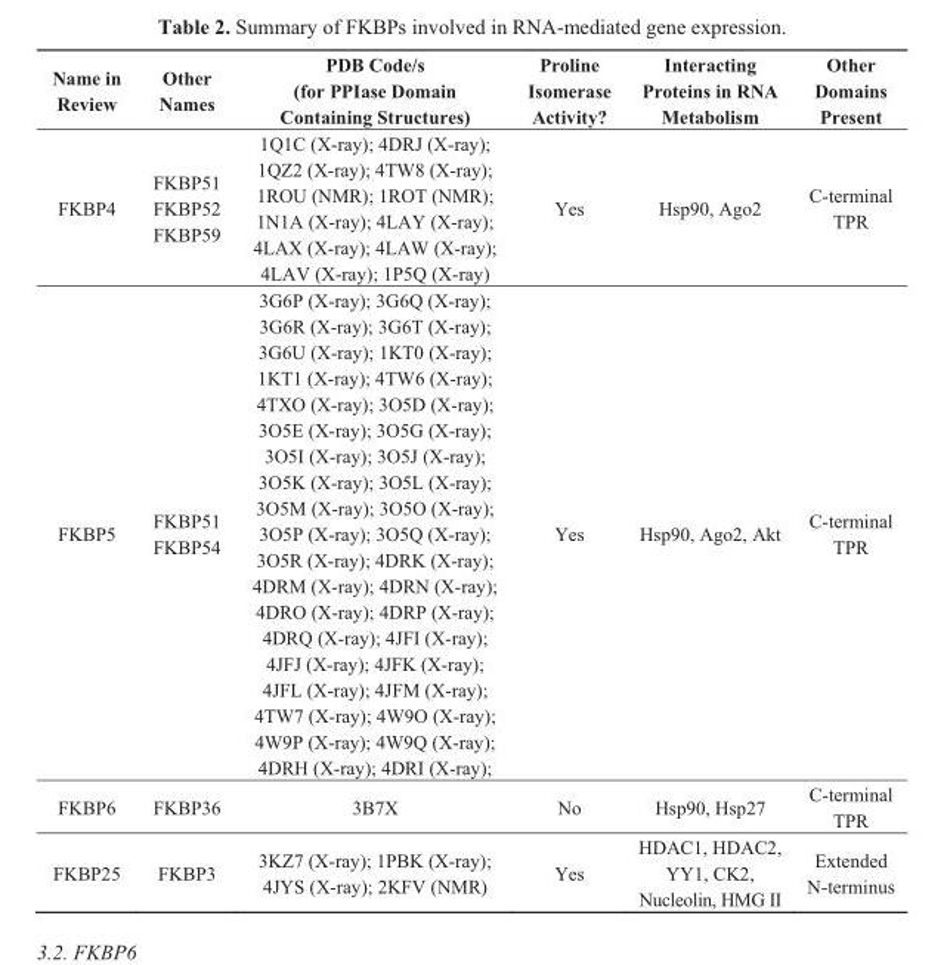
<table><thead><tr><td>Name in Review</td><td>Other Names</td><td>PDB Code/s (for PPIase Domain Containing Structures)</td><td>Proline Isomerase Activity?</td><td>Interacting Proteins in RNA Metabolism</td><td>Other Domains Present</td></tr></thead><tbody><tr><td>FKBP4</td><td>FKBP51 FKBP52 FKBP59</td><td>1Q1C (X-ray); 4DRJ (X-ray); 1QZ2 (X-ray); 4TW8 (X-ray); 1ROU (NMR); 1ROT (NMR); 1N1A (X-ray); 4LAY (X-ray); 4LAX (X-ray); 4LAW (X-ray); 4LAV (X-ray); 1P5Q (X-ray)</td><td>Yes</td><td>Hsp90, Ago2</td><td>C-terminal TPR</td></tr><tr><td>FKBP5</td><td>FKBP51 FKBP54</td><td>3G6P (X-ray); 3G6Q (X-ray); 3G6R (X-ray); 3G6T (X-ray); 3G6U (X-ray); 1KT0 (X-ray); 1KT1 (X-ray); 4TW6 (X-ray); 4TXO (X-ray); 3O5D (X-ray); 3O5E (X-ray); 3O5G (X-ray); 3O5I (X-ray); 3O5J (X-ray); 3O5K (X-ray); 3O5L (X-ray); 3O5M (X-ray); 3O5O (X-ray); 3O5P (X-ray); 3O5Q (X-ray); 3O5R (X-ray); 4DRK (X-ray); 4DRM (X-ray); 4DRN (X-ray); 4DRO (X-ray); 4DRP (X-ray); 4DRQ (X-ray); 4JFI (X-ray); 4JFJ (X-ray); 4JFK (X-ray); 4JFL (X-ray); 4JFM (X-ray); 4TW7 (X-ray); 4W9O (X-ray); 4W9P (X-ray); 4W9Q (X-ray); 4DRH (X-ray); 4DRI (X-ray);</td><td>Yes</td><td>Hsp90, Ago2, Akt</td><td>C-terminal TPR</td></tr><tr><td>FKBP6</td><td>FKBP36</td><td>3B7X</td><td>No</td><td>Hsp90, Hsp27</td><td>C-terminal TPR</td></tr><tr><td>FKBP25</td><td>FKBP3</td><td>3KZ7 (X-ray); 1PBK (X-ray); 4JYS (X-ray); 2KFV (NMR)</td><td>Yes</td><td>HDAC1, HDAC2, YY1, CK2, Nucleolin, HMG II</td><td>Extended N-terminus</td></tr></tbody></table>